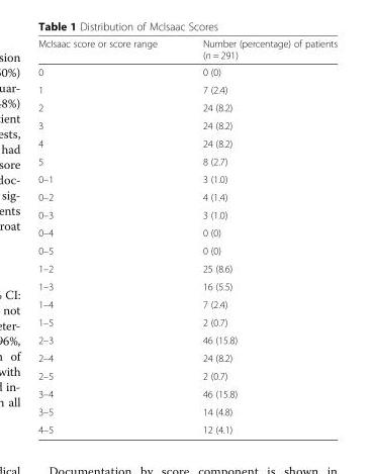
<table><thead><tr><td>McIsaac score or score range</td><td>Number (percentage) of patients (n = 291)</td></tr></thead><tbody><tr><td>0</td><td>0 (0)</td></tr><tr><td>1</td><td>7 (2.4)</td></tr><tr><td>2</td><td>24 (8.2)</td></tr><tr><td>3</td><td>24 (8.2)</td></tr><tr><td>4</td><td>24 (8.2)</td></tr><tr><td>5</td><td>8 (2.7)</td></tr><tr><td>0–1</td><td>3 (1.0)</td></tr><tr><td>0–2</td><td>4 (1.4)</td></tr><tr><td>0–3</td><td>3 (1.0)</td></tr><tr><td>0–4</td><td>0 (0)</td></tr><tr><td>0–5</td><td>0 (0)</td></tr><tr><td>1–2</td><td>25 (8.6)</td></tr><tr><td>1–3</td><td>16 (5.5)</td></tr><tr><td>1–4</td><td>7 (2.4)</td></tr><tr><td>1–5</td><td>2 (0.7)</td></tr><tr><td>2–3</td><td>46 (15.8)</td></tr><tr><td>2–4</td><td>24 (8.2)</td></tr><tr><td>2–5</td><td>2 (0.7)</td></tr><tr><td>3–4</td><td>46 (15.8)</td></tr><tr><td>3–5</td><td>14 (4.8)</td></tr><tr><td>4–5</td><td>12 (4.1)</td></tr></tbody></table>